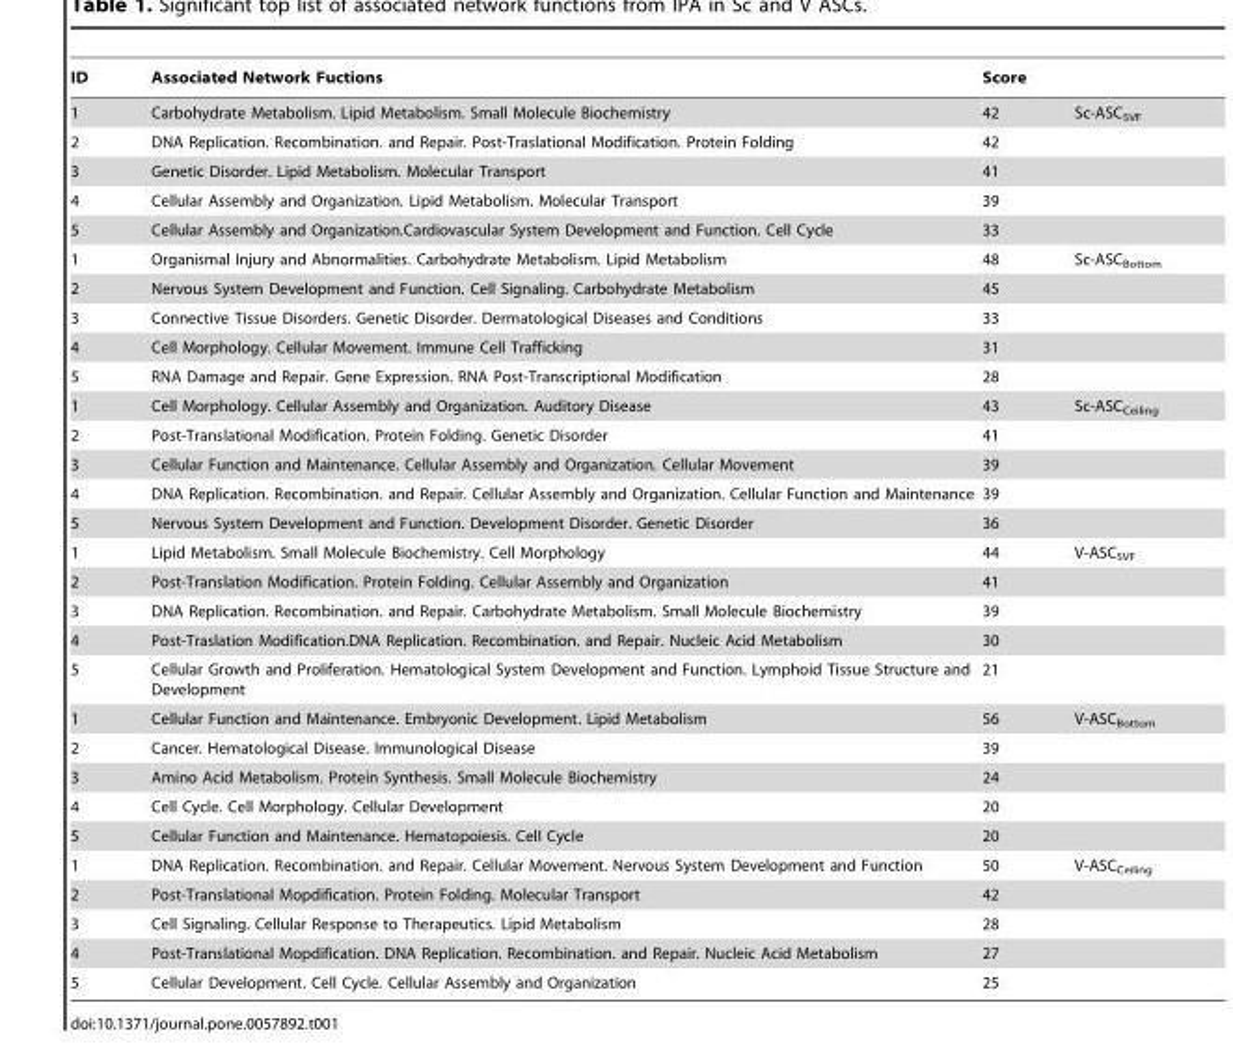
<table><thead><tr><td>ID</td><td>Associated Network Fuctions</td><td>Score</td><td></td></tr></thead><tbody><tr><td>1</td><td>Carbohydrate Metabolism. Lipid Metabolism. Small Molecule Biochemistry</td><td>42</td><td>Sc-ASC<sub>SVF</sub></td></tr><tr><td>2</td><td>DNA Replication. Recombination. and Repair. Post-Traslational Modification. Protein Folding</td><td>42</td><td></td></tr><tr><td>3</td><td>Genetic Disorder. Lipid Metabolism. Molecular Transport</td><td>41</td><td></td></tr><tr><td>4</td><td>Cellular Assembly and Organization. Lipid Metabolism. Molecular Transport</td><td>39</td><td></td></tr><tr><td>5</td><td>Cellular Assembly and Organization.Cardiovascular System Development and Function. Cell Cycle</td><td>33</td><td></td></tr><tr><td>1</td><td>Organismal Injury and Abnormalities. Carbohydrate Metabolism. Lipid Metabolism</td><td>48</td><td>Sc-ASC<sub>Bottom</sub></td></tr><tr><td>2</td><td>Nervous System Development and Function. Cell Signaling. Carbohydrate Metabolism</td><td>45</td><td></td></tr><tr><td>3</td><td>Connective Tissue Disorders. Genetic Disorder. Dermatological Diseases and Conditions</td><td>33</td><td></td></tr><tr><td>4</td><td>Cell Morphology. Cellular Movement. Immune Cell Trafficking</td><td>31</td><td></td></tr><tr><td>5</td><td>RNA Damage and Repair. Gene Expression. RNA Post-Transcriptional Modification</td><td>28</td><td></td></tr><tr><td>1</td><td>Cell Morphology. Cellular Assembly and Organization. Auditory Disease</td><td>43</td><td>Sc-ASC<sub>Ceiling</sub></td></tr><tr><td>2</td><td>Post-Translational Modification. Protein Folding. Genetic Disorder</td><td>41</td><td></td></tr><tr><td>3</td><td>Cellular Function and Maintenance. Cellular Assembly and Organization. Cellular Movement</td><td>39</td><td></td></tr><tr><td>4</td><td>DNA Replication. Recombination. and Repair. Cellular Assembly and Organization. Cellular Function and Maintenance</td><td>39</td><td></td></tr><tr><td>5</td><td>Nervous System Development and Function. Development Disorder. Genetic Disorder</td><td>36</td><td></td></tr><tr><td>1</td><td>Lipid Metabolism. Small Molecule Biochemistry. Cell Morphology</td><td>44</td><td>V-ASC<sub>SVF</sub></td></tr><tr><td>2</td><td>Post-Translation Modification. Protein Folding. Cellular Assembly and Organization</td><td>41</td><td></td></tr><tr><td>3</td><td>DNA Replication. Recombination. and Repair. Carbohydrate Metabolism. Small Molecule Biochemistry</td><td>39</td><td></td></tr><tr><td>4</td><td>Post-Traslation Modification.DNA Replication. Recombination. and Repair. Nucleic Acid Metabolism</td><td>30</td><td></td></tr><tr><td>5</td><td>Cellular Growth and Proliferation. Hematological System Development and Function. Lymphoid Tissue Structure and Development</td><td>21</td><td></td></tr><tr><td>1</td><td>Cellular Function and Maintenance. Embryonic Development. Lipid Metabolism</td><td>56</td><td>V-ASC<sub>Bottom</sub></td></tr><tr><td>2</td><td>Cancer. Hematological Disease. Immunological Disease</td><td>39</td><td></td></tr><tr><td>3</td><td>Amino Acid Metabolism. Protein Synthesis. Small Molecule Biochemistry</td><td>24</td><td></td></tr><tr><td>4</td><td>Cell Cycle. Cell Morphology. Cellular Development</td><td>20</td><td></td></tr><tr><td>5</td><td>Cellular Function and Maintenance. Hematopoiesis. Cell Cycle</td><td>20</td><td></td></tr><tr><td>1</td><td>DNA Replication. Recombination. and Repair. Cellular Movement. Nervous System Development and Function</td><td>50</td><td>V-ASC<sub>Ceiling</sub></td></tr><tr><td>2</td><td>Post-Translational Mopdification. Protein Folding. Molecular Transport</td><td>42</td><td></td></tr><tr><td>3</td><td>Cell Signaling. Cellular Response to Therapeutics. Lipid Metabolism</td><td>28</td><td></td></tr><tr><td>4</td><td>Post-Translational Mopdification. DNA Replication. Recombination. and Repair. Nucleic Acid Metabolism</td><td>27</td><td></td></tr><tr><td>5</td><td>Cellular Development. Cell Cycle. Cellular Assembly and Organization</td><td>25</td><td></td></tr></tbody></table>